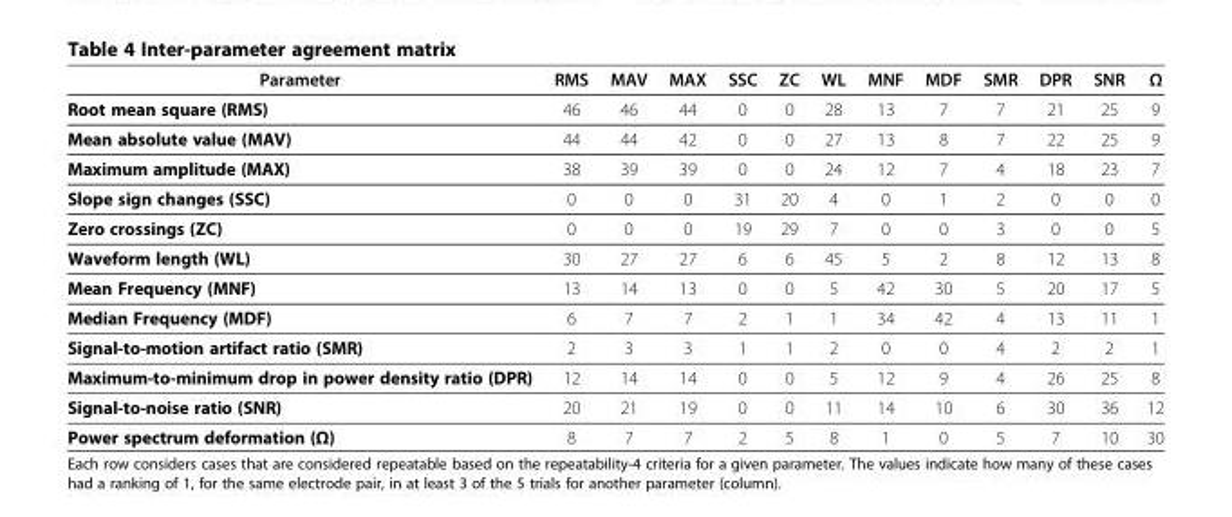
<table><thead><tr><td>Parameter</td><td>RMS</td><td>MAV</td><td>MAX</td><td>SSC</td><td>ZC</td><td>WL</td><td>MNF</td><td>MDF</td><td>SMR</td><td>DPR</td><td>SNR</td><td>Ω</td></tr></thead><tbody><tr><td>Root mean square (RMS)</td><td>46</td><td>46</td><td>44</td><td>0</td><td>0</td><td>28</td><td>13</td><td>7</td><td>7</td><td>21</td><td>25</td><td>9</td></tr><tr><td>Mean absolute value (MAV)</td><td>44</td><td>44</td><td>42</td><td>0</td><td>0</td><td>27</td><td>13</td><td>8</td><td>7</td><td>22</td><td>25</td><td>9</td></tr><tr><td>Maximum amplitude (MAX)</td><td>38</td><td>39</td><td>39</td><td>0</td><td>0</td><td>24</td><td>12</td><td>7</td><td>4</td><td>18</td><td>23</td><td>7</td></tr><tr><td>Slope sign changes (SSC)</td><td>0</td><td>0</td><td>0</td><td>31</td><td>20</td><td>4</td><td>0</td><td>1</td><td>2</td><td>0</td><td>0</td><td>0</td></tr><tr><td>Zero crossings (ZC)</td><td>0</td><td>0</td><td>0</td><td>19</td><td>29</td><td>7</td><td>0</td><td>0</td><td>3</td><td>0</td><td>0</td><td>5</td></tr><tr><td>Waveform length (WL)</td><td>30</td><td>27</td><td>27</td><td>6</td><td>6</td><td>45</td><td>5</td><td>2</td><td>8</td><td>12</td><td>13</td><td>8</td></tr><tr><td>Mean Frequency (MNF)</td><td>13</td><td>14</td><td>13</td><td>0</td><td>0</td><td>5</td><td>42</td><td>30</td><td>5</td><td>20</td><td>17</td><td>5</td></tr><tr><td>Median Frequency (MDF)</td><td>6</td><td>7</td><td>7</td><td>2</td><td>1</td><td>1</td><td>34</td><td>42</td><td>4</td><td>13</td><td>11</td><td>1</td></tr><tr><td>Signal-to-motion artifact ratio (SMR)</td><td>2</td><td>3</td><td>3</td><td>1</td><td>1</td><td>2</td><td>0</td><td>0</td><td>4</td><td>2</td><td>2</td><td>1</td></tr><tr><td>Maximum-to-minimum drop in power density ratio (DPR)</td><td>12</td><td>14</td><td>14</td><td>0</td><td>0</td><td>5</td><td>12</td><td>9</td><td>4</td><td>26</td><td>25</td><td>8</td></tr><tr><td>Signal-to-noise ratio (SNR)</td><td>20</td><td>21</td><td>19</td><td>0</td><td>0</td><td>11</td><td>14</td><td>10</td><td>6</td><td>30</td><td>36</td><td>12</td></tr><tr><td>Power spectrum deformation (Ω)</td><td>8</td><td>7</td><td>7</td><td>2</td><td>5</td><td>8</td><td>1</td><td>0</td><td>5</td><td>7</td><td>10</td><td>30</td></tr></tbody></table>